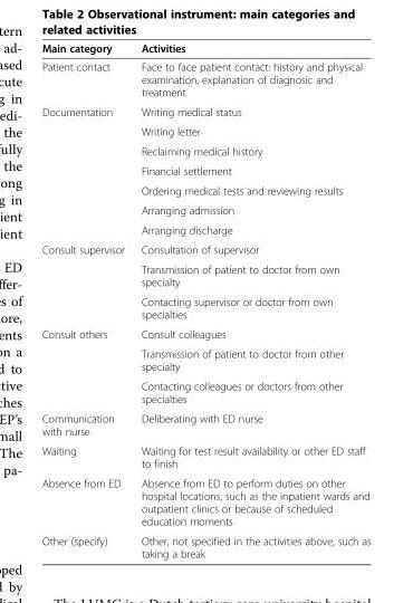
<table><thead><tr><td>Main category</td><td>Activities</td></tr></thead><tbody><tr><td>Patient contact</td><td>Face to face patient contact: history and physical examination, explanation of diagnosic and treatment</td></tr><tr><td rowspan="7">Documentation</td><td>Writing medical status</td></tr><tr><td>Writing letter</td></tr><tr><td>Reclaiming medical history</td></tr><tr><td>Financial settlement</td></tr><tr><td>Ordering medical tests and reviewing results</td></tr><tr><td>Arranging admission</td></tr><tr><td>Arranging discharge</td></tr><tr><td rowspan="3">Consult supervisor</td><td>Consultation of supervisor</td></tr><tr><td>Transmission of patient to doctor from own specialty</td></tr><tr><td>Contacting supervisor or doctor from own specialties</td></tr><tr><td rowspan="3">Consult others</td><td>Consult colleagues</td></tr><tr><td>Transmission of patient to doctor from other specialty</td></tr><tr><td>Contacting colleagues or doctors from other specialties</td></tr><tr><td>Communication with nurse</td><td>Deliberating with ED nurse</td></tr><tr><td>Waiting</td><td>Waiting for test result availability or other ED staff to finish</td></tr><tr><td>Absence from ED</td><td>Absence from ED to perform duties on other hospital locations, such as the inpatient wards and outpatient clinics or because of scheduled education moments</td></tr><tr><td>Other (specify)</td><td>Other, not specified in the activities above, such as taking a break</td></tr></tbody></table>